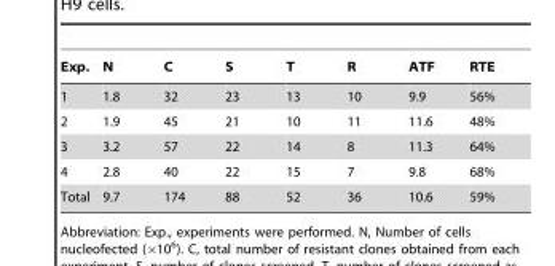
<table><thead><tr><td>Exp.</td><td>N</td><td>C</td><td>S</td><td>T</td><td>R</td><td>ATF</td><td>RTE</td></tr></thead><tbody><tr><td>1</td><td>1.8</td><td>32</td><td>23</td><td>13</td><td>10</td><td>9.9</td><td>56%</td></tr><tr><td>2</td><td>1.9</td><td>45</td><td>21</td><td>10</td><td>11</td><td>11.6</td><td>48%</td></tr><tr><td>3</td><td>3.2</td><td>57</td><td>22</td><td>14</td><td>8</td><td>11.3</td><td>64%</td></tr><tr><td>4</td><td>2.8</td><td>40</td><td>22</td><td>15</td><td>7</td><td>9.8</td><td>68%</td></tr><tr><td>Total</td><td>9.7</td><td>174</td><td>88</td><td>52</td><td>36</td><td>10.6</td><td>59%</td></tr></tbody></table>